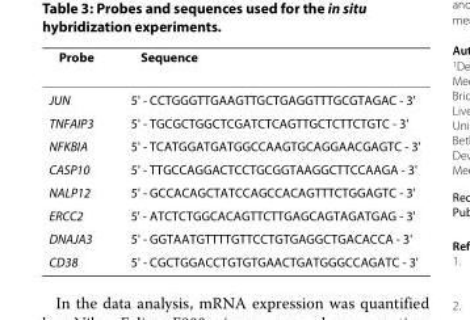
<table><thead><tr><td>Probe</td><td>Sequence</td></tr></thead><tbody><tr><td>JUN</td><td>5&#x27; - CCTGGGTTGAAGTTGCTGAGGTTTGCGTAGAC - 3&#x27;</td></tr><tr><td>TNFAIP3</td><td>5&#x27; - TGCGCTGGCTCGATCTCAGTTGCTCTTCTGTC - 3&#x27;</td></tr><tr><td>NFKBIA</td><td>5&#x27; - TCATGGATGATGGCCAAGTGCAGGAACGAGTC - 3&#x27;</td></tr><tr><td>CASP10</td><td>5&#x27; - TTGCCAGGACTCCTGCGGTAAGGCTTCCAAGA - 3&#x27;</td></tr><tr><td>NALP12</td><td>5&#x27; - GCCACAGCTATCCAGCCACAGTTTCTGGAGTC - 3&#x27;</td></tr><tr><td>ERCC2</td><td>5&#x27; - ATCTCTGGCACAGTTCTTGAGCAGTAGATGAG - 3&#x27;</td></tr><tr><td>DNAJA3</td><td>5&#x27; - GGTAATGTTTTGTTCCTGTGAGGCTGACACCA - 3&#x27;</td></tr><tr><td>CD38</td><td>5&#x27; - CGCTGGACCTGTGTGAACTGATGGGCCAGATC - 3&#x27;</td></tr></tbody></table>